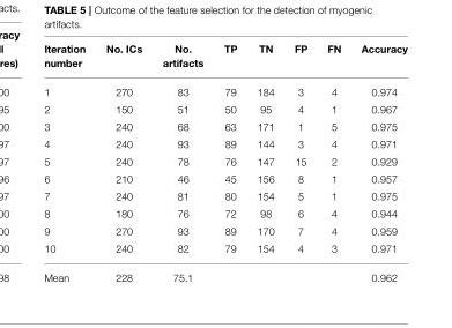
<table><thead><tr><td>Iteration number</td><td>No. ICs</td><td>No. artifacts</td><td>TP</td><td>TN</td><td>FP</td><td>FN</td><td>Accuracy</td></tr></thead><tbody><tr><td>1</td><td>270</td><td>83</td><td>79</td><td>184</td><td>3</td><td>4</td><td>0.974</td></tr><tr><td>2</td><td>150</td><td>51</td><td>50</td><td>95</td><td>4</td><td>1</td><td>0.967</td></tr><tr><td>3</td><td>240</td><td>68</td><td>63</td><td>171</td><td>1</td><td>5</td><td>0.975</td></tr><tr><td>4</td><td>240</td><td>93</td><td>89</td><td>144</td><td>3</td><td>4</td><td>0.971</td></tr><tr><td>5</td><td>240</td><td>78</td><td>76</td><td>147</td><td>15</td><td>2</td><td>0.929</td></tr><tr><td>6</td><td>210</td><td>46</td><td>45</td><td>156</td><td>8</td><td>1</td><td>0.957</td></tr><tr><td>7</td><td>240</td><td>81</td><td>80</td><td>154</td><td>5</td><td>1</td><td>0.975</td></tr><tr><td>8</td><td>180</td><td>76</td><td>72</td><td>98</td><td>6</td><td>4</td><td>0.944</td></tr><tr><td>9</td><td>270</td><td>93</td><td>89</td><td>170</td><td>7</td><td>4</td><td>0.959</td></tr><tr><td>10</td><td>240</td><td>82</td><td>79</td><td>154</td><td>4</td><td>3</td><td>0.971</td></tr><tr><td>Mean</td><td>228</td><td>75.1</td><td></td><td></td><td></td><td></td><td>0.962</td></tr></tbody></table>